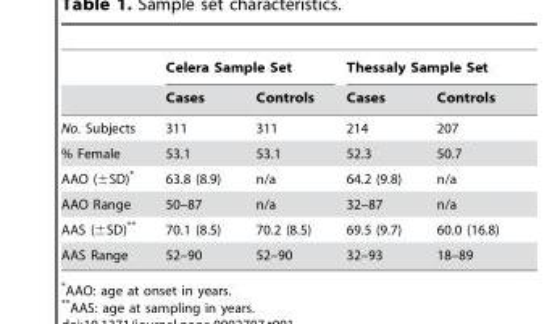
<table><thead><tr><td rowspan="2"></td><td colspan="2">Celera Sample Set</td><td colspan="2">Thessaly Sample Set</td></tr><tr><td>Cases</td><td>Controls</td><td>Cases</td><td>Controls</td></tr></thead><tbody><tr><td>No. Subjects</td><td>311</td><td>311</td><td>214</td><td>207</td></tr><tr><td>% Female</td><td>53.1</td><td>53.1</td><td>52.3</td><td>50.7</td></tr><tr><td>AAO (±SD)*</td><td>63.8 (8.9)</td><td>n/a</td><td>64.2 (9.8)</td><td>n/a</td></tr><tr><td>AAO Range</td><td>50–87</td><td>n/a</td><td>32–87</td><td>n/a</td></tr><tr><td>AAS (±SD)**</td><td>70.1 (8.5)</td><td>70.2 (8.5)</td><td>69.5 (9.7)</td><td>60.0 (16.8)</td></tr><tr><td>AAS Range</td><td>52–90</td><td>52–90</td><td>32–93</td><td>18–89</td></tr></tbody></table>